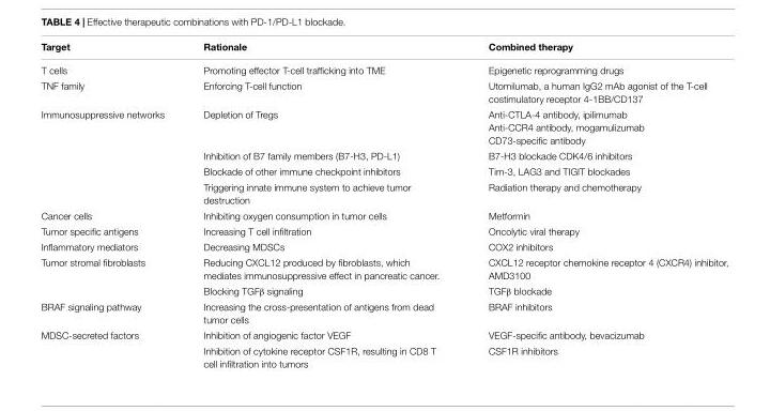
<table><thead><tr><td>Target</td><td>Rationale</td><td>Combined therapy</td></tr></thead><tbody><tr><td>T cells</td><td>Promoting effector T-cell trafficking into TME</td><td>Epigenetic reprogramming drugs</td></tr><tr><td>TNF family</td><td>Enforcing T-cell function</td><td>Utomilumab, a human IgG2 mAb agonist of the T-cell costimulatory receptor 4-1BB/CD137</td></tr><tr><td rowspan="6">Immunosuppressive networks</td><td>Depletion of Tregs</td><td>Anti-CTLA-4 antibody, ipilimumab</td></tr><tr><td></td><td>Anti-CCR4 antibody, mogamulizumab</td></tr><tr><td></td><td>CD73-specific antibody</td></tr><tr><td>Inhibition of B7 family members (B7-H3, PD-L1)</td><td>B7-H3 blockade CDK4/6 inhibitors</td></tr><tr><td>Blockade of other immune checkpoint inhibitors</td><td>Tim-3, LAG3 and TIGIT blockades</td></tr><tr><td>Triggering innate immune system to achieve tumor destruction</td><td>Radiation therapy and chemotherapy</td></tr><tr><td>Cancer cells</td><td>Inhibiting oxygen consumption in tumor cells</td><td>Metformin</td></tr><tr><td>Tumor specific antigens</td><td>Increasing T cell infiltration</td><td>Oncolytic viral therapy</td></tr><tr><td>Inflammatory mediators</td><td>Decreasing MDSCs</td><td>COX2 inhibitors</td></tr><tr><td rowspan="2">Tumor stromal fibroblasts</td><td>Reducing CXCL12 produced by fibroblasts, which mediates immunosuppressive effect in pancreatic cancer.</td><td>CXCL12 receptor chemokine receptor 4 (CXCR4) inhibitor, AMD3100</td></tr><tr><td>Blocking TGFβ signaling</td><td>TGFβ blockade</td></tr><tr><td>BRAF signaling pathway</td><td>Increasing the cross-presentation of antigens from dead tumor cells</td><td>BRAF inhibitors</td></tr><tr><td rowspan="2">MDSC-secreted factors</td><td>Inhibition of angiogenic factor VEGF</td><td>VEGF-specific antibody, bevacizumab</td></tr><tr><td>Inhibition of cytokine receptor CSF1R, resulting in CD8 T cell infiltration into tumors</td><td>CSF1R inhibitors</td></tr></tbody></table>